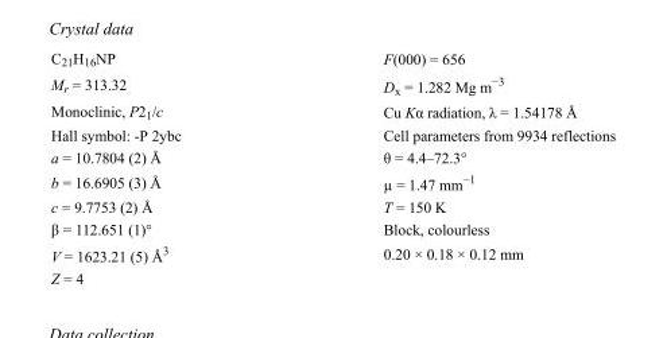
<table><tbody><tr><td>C<sub>21</sub>H<sub>16</sub>NP</td><td>F(000) = 656</td></tr><tr><td>M<sub>r</sub> = 313.32</td><td>D<sub>x</sub> = 1.282 Mg m<sup>−3</sup></td></tr><tr><td>Monoclinic, P2<sub>1</sub>/c</td><td>Cu Kα radiation, λ = 1.54178 Å</td></tr><tr><td>Hall symbol: -P 2ybc</td><td>Cell parameters from 9934 reflections</td></tr><tr><td>a = 10.7804 (2) Å</td><td>θ = 4.4–72.3°</td></tr><tr><td>b = 16.6905 (3) Å</td><td>µ = 1.47 mm<sup>−1</sup></td></tr><tr><td>c = 9.7753 (2) Å</td><td>T = 150 K</td></tr><tr><td>β = 112.651 (1)°</td><td>Block, colourless</td></tr><tr><td>V = 1623.21 (5) Å<sup>3</sup></td><td>0.20 × 0.18 × 0.12 mm</td></tr><tr><td>Z = 4</td><td></td></tr></tbody></table>